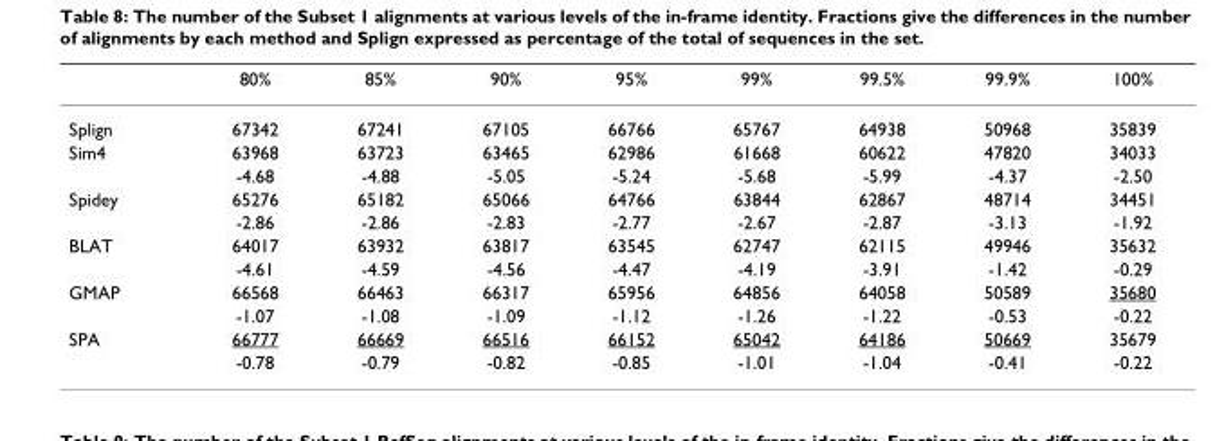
<table><thead><tr><td></td><td>80%</td><td>85%</td><td>90%</td><td>95%</td><td>99%</td><td>99.5%</td><td>99.9%</td><td>100%</td></tr></thead><tbody><tr><td>Splign</td><td>67342</td><td>67241</td><td>67105</td><td>66766</td><td>65767</td><td>64938</td><td>50968</td><td>35839</td></tr><tr><td rowspan="2">Sim4</td><td>63968</td><td>63723</td><td>63465</td><td>62986</td><td>61668</td><td>60622</td><td>47820</td><td>34033</td></tr><tr><td>-4.68</td><td>-4.88</td><td>-5.05</td><td>-5.24</td><td>-5.68</td><td>-5.99</td><td>-4.37</td><td>-2.50</td></tr><tr><td rowspan="2">Spidey</td><td>65276</td><td>65182</td><td>65066</td><td>64766</td><td>63844</td><td>62867</td><td>48714</td><td>34451</td></tr><tr><td>-2.86</td><td>-2.86</td><td>-2.83</td><td>-2.77</td><td>-2.67</td><td>-2.87</td><td>-3.13</td><td>-1.92</td></tr><tr><td rowspan="2">BLAT</td><td>64017</td><td>63932</td><td>63817</td><td>63545</td><td>62747</td><td>62115</td><td>49946</td><td>35632</td></tr><tr><td>-4.61</td><td>-4.59</td><td>-4.56</td><td>-4.47</td><td>-4.19</td><td>-3.91</td><td>-1.42</td><td>-0.29</td></tr><tr><td rowspan="2">GMAP</td><td>66568</td><td>66463</td><td>66317</td><td>65956</td><td>64856</td><td>64058</td><td>50589</td><td>35680</td></tr><tr><td>-1.07</td><td>-1.08</td><td>-1.09</td><td>-1.12</td><td>-1.26</td><td>-1.22</td><td>-0.53</td><td>-0.22</td></tr><tr><td rowspan="2">SPA</td><td>66777</td><td>66669</td><td>66516</td><td>66152</td><td>65042</td><td>64186</td><td>50669</td><td>35679</td></tr><tr><td>-0.78</td><td>-0.79</td><td>-0.82</td><td>-0.85</td><td>-1.01</td><td>-1.04</td><td>-0.41</td><td>-0.22</td></tr></tbody></table>